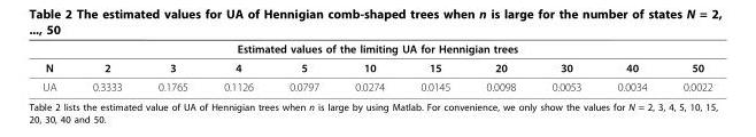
<table><thead><tr><td colspan="11">Estimated values of the limiting UA for Hennigian trees</td></tr><tr><td>N</td><td>2</td><td>3</td><td>4</td><td>5</td><td>10</td><td>15</td><td>20</td><td>30</td><td>40</td><td>50</td></tr></thead><tbody><tr><td>UA</td><td>0.3333</td><td>0.1765</td><td>0.1126</td><td>0.0797</td><td>0.0274</td><td>0.0145</td><td>0.0098</td><td>0.0053</td><td>0.0034</td><td>0.0022</td></tr></tbody></table>